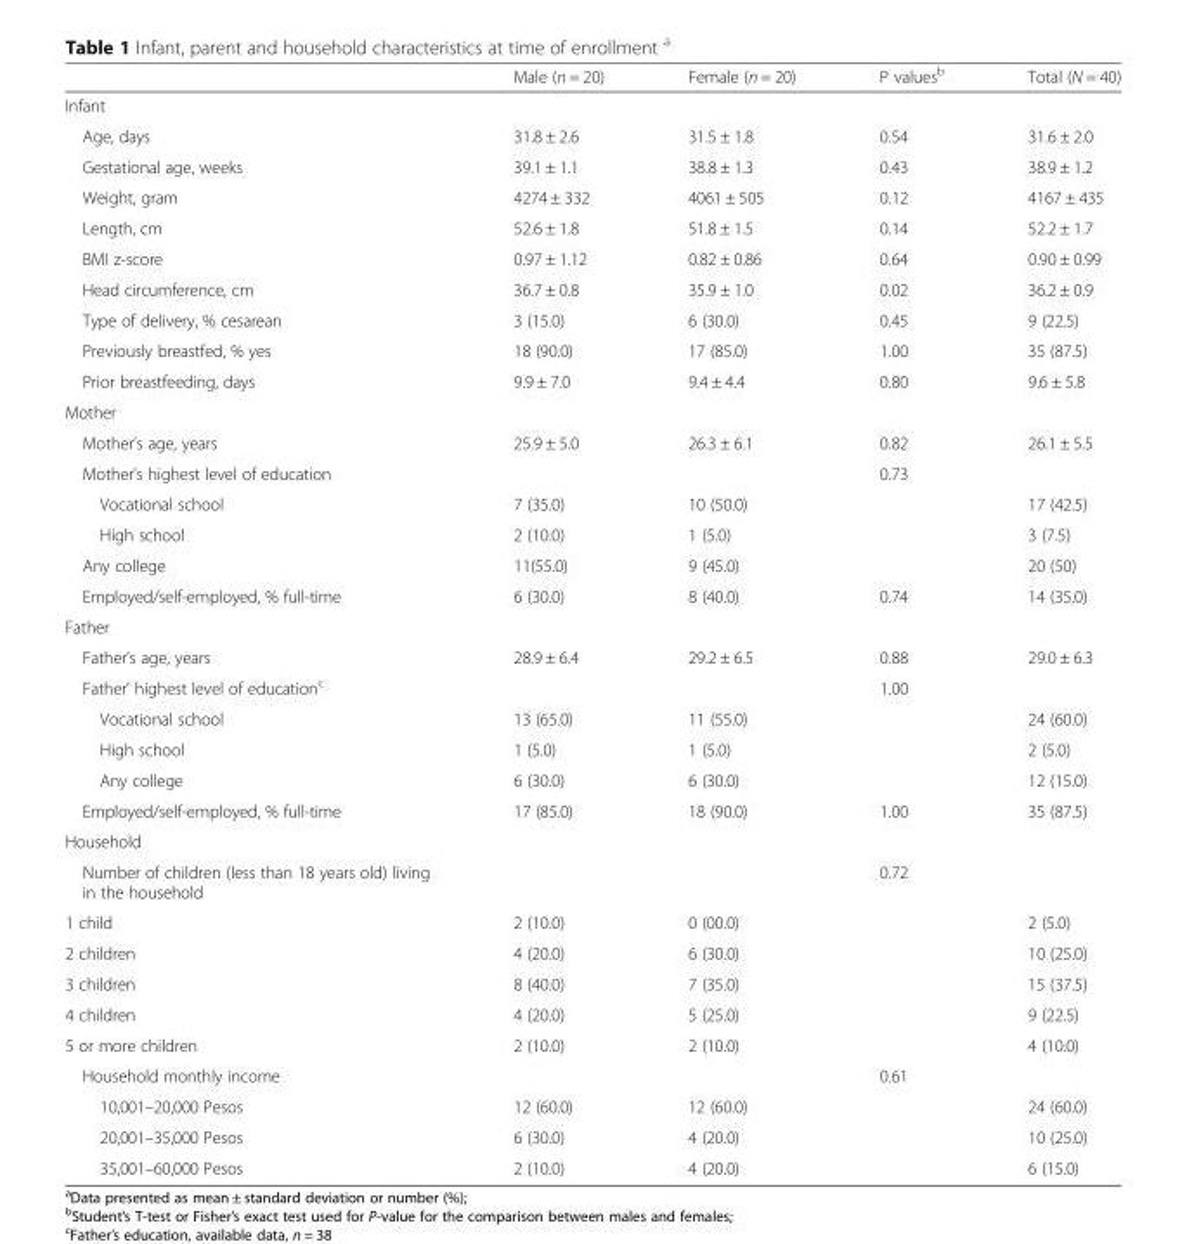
<table><thead><tr><td></td><td>Male (n = 20)</td><td>Female (n = 20)</td><td>P values<sup>b</sup></td><td>Total (N = 40)</td></tr></thead><tbody><tr><td colspan="5">Infant</td></tr><tr><td>Age, days</td><td>31.8 ± 2.6</td><td>31.5 ± 1.8</td><td>0.54</td><td>31.6 ± 2.0</td></tr><tr><td>Gestational age, weeks</td><td>39.1 ± 1.1</td><td>38.8 ± 1.3</td><td>0.43</td><td>38.9 ± 1.2</td></tr><tr><td>Weight, gram</td><td>4274 ± 332</td><td>4061 ± 505</td><td>0.12</td><td>4167 ± 435</td></tr><tr><td>Length, cm</td><td>52.6 ± 1.8</td><td>51.8 ± 1.5</td><td>0.14</td><td>52.2 ± 1.7</td></tr><tr><td>BMI z-score</td><td>0.97 ± 1.12</td><td>0.82 ± 0.86</td><td>0.64</td><td>0.90 ± 0.99</td></tr><tr><td>Head circumference, cm</td><td>36.7 ± 0.8</td><td>35.9 ± 1.0</td><td>0.02</td><td>36.2 ± 0.9</td></tr><tr><td>Type of delivery, % cesarean</td><td>3 (15.0)</td><td>6 (30.0)</td><td>0.45</td><td>9 (22.5)</td></tr><tr><td>Previously breastfed, % yes</td><td>18 (90.0)</td><td>17 (85.0)</td><td>1.00</td><td>35 (87.5)</td></tr><tr><td>Prior breastfeeding, days</td><td>9.9 ± 7.0</td><td>9.4 ± 4.4</td><td>0.80</td><td>9.6 ± 5.8</td></tr><tr><td colspan="5">Mother</td></tr><tr><td>Mother’s age, years</td><td>25.9 ± 5.0</td><td>26.3 ± 6.1</td><td>0.82</td><td>26.1 ± 5.5</td></tr><tr><td>Mother’s highest level of education</td><td colspan="2"></td><td>0.73</td><td></td></tr><tr><td>Vocational school</td><td>7 (35.0)</td><td>10 (50.0)</td><td></td><td>17 (42.5)</td></tr><tr><td>High school</td><td>2 (10.0)</td><td>1 (5.0)</td><td></td><td>3 (7.5)</td></tr><tr><td>Any college</td><td>11(55.0)</td><td>9 (45.0)</td><td></td><td>20 (50)</td></tr><tr><td>Employed/self-employed, % full-time</td><td>6 (30.0)</td><td>8 (40.0)</td><td>0.74</td><td>14 (35.0)</td></tr><tr><td colspan="5">Father</td></tr><tr><td>Father’s age, years</td><td>28.9 ± 6.4</td><td>29.2 ± 6.5</td><td>0.88</td><td>29.0 ± 6.3</td></tr><tr><td>Father’ highest level of education<sup>c</sup></td><td colspan="2"></td><td>1.00</td><td></td></tr><tr><td>Vocational school</td><td>13 (65.0)</td><td>11 (55.0)</td><td></td><td>24 (60.0)</td></tr><tr><td>High school</td><td>1 (5.0)</td><td>1 (5.0)</td><td></td><td>2 (5.0)</td></tr><tr><td>Any college</td><td>6 (30.0)</td><td>6 (30.0)</td><td></td><td>12 (15.0)</td></tr><tr><td>Employed/self-employed, % full-time</td><td>17 (85.0)</td><td>18 (90.0)</td><td>1.00</td><td>35 (87.5)</td></tr><tr><td colspan="5">Household</td></tr><tr><td>Number of children (less than 18 years old) living in the household</td><td></td><td></td><td>0.72</td><td></td></tr><tr><td>1 child</td><td>2 (10.0)</td><td>0 (00.0)</td><td></td><td>2 (5.0)</td></tr><tr><td>2 children</td><td>4 (20.0)</td><td>6 (30.0)</td><td></td><td>10 (25.0)</td></tr><tr><td>3 children</td><td>8 (40.0)</td><td>7 (35.0)</td><td></td><td>15 (37.5)</td></tr><tr><td>4 children</td><td>4 (20.0)</td><td>5 (25.0)</td><td></td><td>9 (22.5)</td></tr><tr><td>5 or more children</td><td>2 (10.0)</td><td>2 (10.0)</td><td></td><td>4 (10.0)</td></tr><tr><td>Household monthly income</td><td></td><td></td><td>0.61</td><td></td></tr><tr><td>10,001–20,000 Pesos</td><td>12 (60.0)</td><td>12 (60.0)</td><td></td><td>24 (60.0)</td></tr><tr><td>20,001–35,000 Pesos</td><td>6 (30.0)</td><td>4 (20.0)</td><td></td><td>10 (25.0)</td></tr><tr><td>35,001–60,000 Pesos</td><td>2 (10.0)</td><td>4 (20.0)</td><td></td><td>6 (15.0)</td></tr></tbody></table>